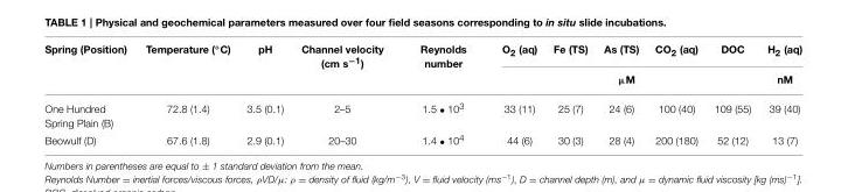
<table><thead><tr><td rowspan="2">Spring (Position)</td><td rowspan="2">Temperature (◦C)</td><td rowspan="2">pH</td><td rowspan="2">Channel velocity (cm s<sup>−1</sup>)</td><td rowspan="2">Reynolds number</td><td>O<sub>2</sub> (aq)</td><td>Fe (TS)</td><td>As (TS)</td><td>CO<sub>2</sub> (aq)</td><td>DOC</td><td rowspan="2">H<sub>2</sub> (aq) nM</td></tr><tr><td colspan="5">µM</td></tr></thead><tbody><tr><td>One Hundred Spring Plain (B)</td><td>72.8 (1.4)</td><td>3.5 (0.1)</td><td>2–5</td><td>1.5 • 10<sup>3</sup></td><td>33 (11)</td><td>25 (7)</td><td>24 (6)</td><td>100 (40)</td><td>109 (55)</td><td>39 (40)</td></tr><tr><td>Beowulf (D)</td><td>67.6 (1.8)</td><td>2.9 (0.1)</td><td>20–30</td><td>1.4 • 10<sup>4</sup></td><td>44 (6)</td><td>30 (3)</td><td>28 (4)</td><td>200 (180)</td><td>52 (12)</td><td>13 (7)</td></tr></tbody></table>